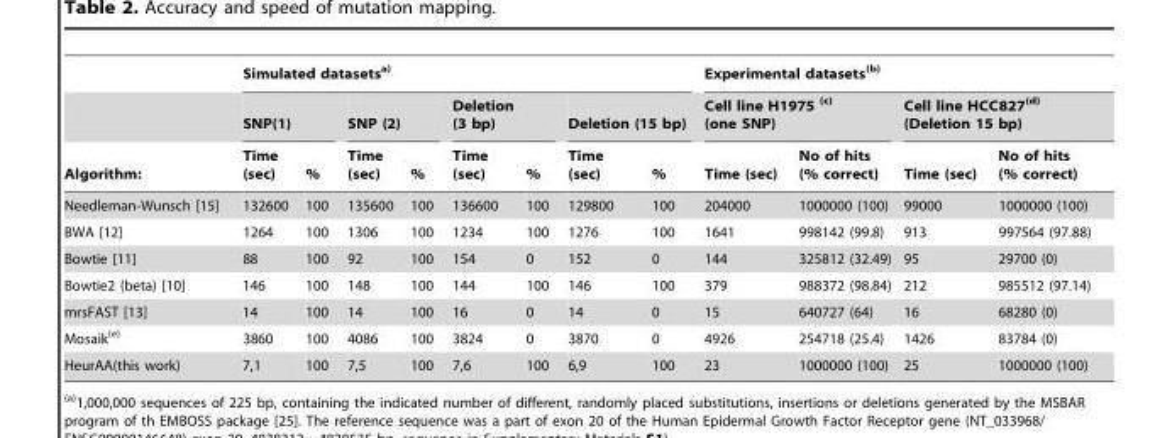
<table><thead><tr><td rowspan="3">Algorithm:</td><td colspan="8">Simulated datasets<sup>a)</sup></td><td colspan="4">Experimental datasets(b)</td></tr><tr><td colspan="2">SNP(1)</td><td colspan="2">SNP (2)</td><td colspan="2">Deletion (3 bp)</td><td colspan="2">Deletion (15 bp)</td><td colspan="2">Cell line H1975 (c) (one SNP)</td><td colspan="2">Cell line HCC827(d) (Deletion 15 bp)</td></tr><tr><td>Time (sec)</td><td>%</td><td>Time (sec)</td><td>%</td><td>Time (sec)</td><td>%</td><td>Time (sec)</td><td>%</td><td>Time (sec)</td><td>No of hits (% correct)</td><td>Time (sec)</td><td>No of hits (% correct)</td></tr></thead><tbody><tr><td>Needleman-Wunsch [15]</td><td>132600</td><td>100</td><td>135600</td><td>100</td><td>136600</td><td>100</td><td>129800</td><td>100</td><td>204000</td><td>1000000 (100)</td><td>99000</td><td>1000000 (100)</td></tr><tr><td>BWA [12]</td><td>1264</td><td>100</td><td>1306</td><td>100</td><td>1234</td><td>100</td><td>1276</td><td>100</td><td>1641</td><td>998142 (99.8)</td><td>913</td><td>997564 (97.88)</td></tr><tr><td>Bowtie [11]</td><td>88</td><td>100</td><td>92</td><td>100</td><td>154</td><td>0</td><td>152</td><td>0</td><td>144</td><td>325812 (32.49)</td><td>95</td><td>29700 (0)</td></tr><tr><td>Bowtie2 (beta) [10]</td><td>146</td><td>100</td><td>148</td><td>100</td><td>144</td><td>100</td><td>146</td><td>100</td><td>379</td><td>988372 (98.84)</td><td>212</td><td>985512 (97.14)</td></tr><tr><td>mrsFAST [13]</td><td>14</td><td>100</td><td>14</td><td>100</td><td>16</td><td>0</td><td>14</td><td>0</td><td>15</td><td>640727 (64)</td><td>16</td><td>68280 (0)</td></tr><tr><td>Mosaik(e)</td><td>3860</td><td>100</td><td>4086</td><td>100</td><td>3824</td><td>0</td><td>3870</td><td>0</td><td>4926</td><td>254718 (25.4)</td><td>1426</td><td>83784 (0)</td></tr><tr><td>HeurAA(this work)</td><td>7,1</td><td>100</td><td>7,5</td><td>100</td><td>7,6</td><td>100</td><td>6,9</td><td>100</td><td>23</td><td>1000000 (100)</td><td>25</td><td>1000000 (100)</td></tr></tbody></table>